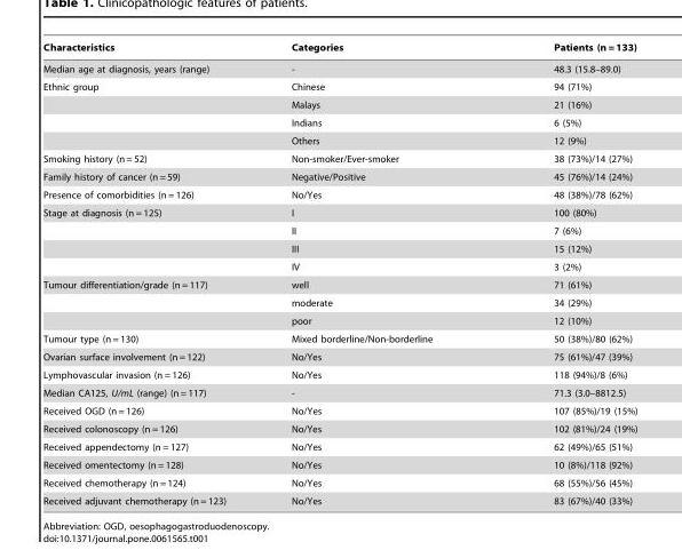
<table><thead><tr><td>Characteristics</td><td>Categories</td><td>Patients (n = 133)</td></tr></thead><tbody><tr><td>Median age at diagnosis, years (range)</td><td>-</td><td>48.3 (15.8–89.0)</td></tr><tr><td rowspan="4">Ethnic group</td><td>Chinese</td><td>94 (71%)</td></tr><tr><td>Malays</td><td>21 (16%)</td></tr><tr><td>Indians</td><td>6 (5%)</td></tr><tr><td>Others</td><td>12 (9%)</td></tr><tr><td>Smoking history (n = 52)</td><td>Non-smoker/Ever-smoker</td><td>38 (73%)/14 (27%)</td></tr><tr><td>Family history of cancer (n = 59)</td><td>Negative/Positive</td><td>45 (76%)/14 (24%)</td></tr><tr><td>Presence of comorbidities (n = 126)</td><td>No/Yes</td><td>48 (38%)/78 (62%)</td></tr><tr><td rowspan="4">Stage at diagnosis (n = 125)</td><td>I</td><td>100 (80%)</td></tr><tr><td>II</td><td>7 (6%)</td></tr><tr><td>III</td><td>15 (12%)</td></tr><tr><td>IV</td><td>3 (2%)</td></tr><tr><td rowspan="3">Tumour differentiation/grade (n = 117)</td><td>well</td><td>71 (61%)</td></tr><tr><td>moderate</td><td>34 (29%)</td></tr><tr><td>poor</td><td>12 (10%)</td></tr><tr><td>Tumour type (n = 130)</td><td>Mixed borderline/Non-borderline</td><td>50 (38%)/80 (62%)</td></tr><tr><td>Ovarian surface involvement (n = 122)</td><td>No/Yes</td><td>75 (61%)/47 (39%)</td></tr><tr><td>Lymphovascular invasion (n = 126)</td><td>No/Yes</td><td>118 (94%)/8 (6%)</td></tr><tr><td>Median CA125, U/mL (range) (n = 117)</td><td>-</td><td>71.3 (3.0–8812.5)</td></tr><tr><td>Received OGD (n = 126)</td><td>No/Yes</td><td>107 (85%)/19 (15%)</td></tr><tr><td>Received colonoscopy (n = 126)</td><td>No/Yes</td><td>102 (81%)/24 (19%)</td></tr><tr><td>Received appendectomy (n = 127)</td><td>No/Yes</td><td>62 (49%)/65 (51%)</td></tr><tr><td>Received omentectomy (n = 128)</td><td>No/Yes</td><td>10 (8%)/118 (92%)</td></tr><tr><td>Received chemotherapy (n = 124)</td><td>No/Yes</td><td>68 (55%)/56 (45%)</td></tr><tr><td>Received adjuvant chemotherapy (n = 123)</td><td>No/Yes</td><td>83 (67%)/40 (33%)</td></tr></tbody></table>